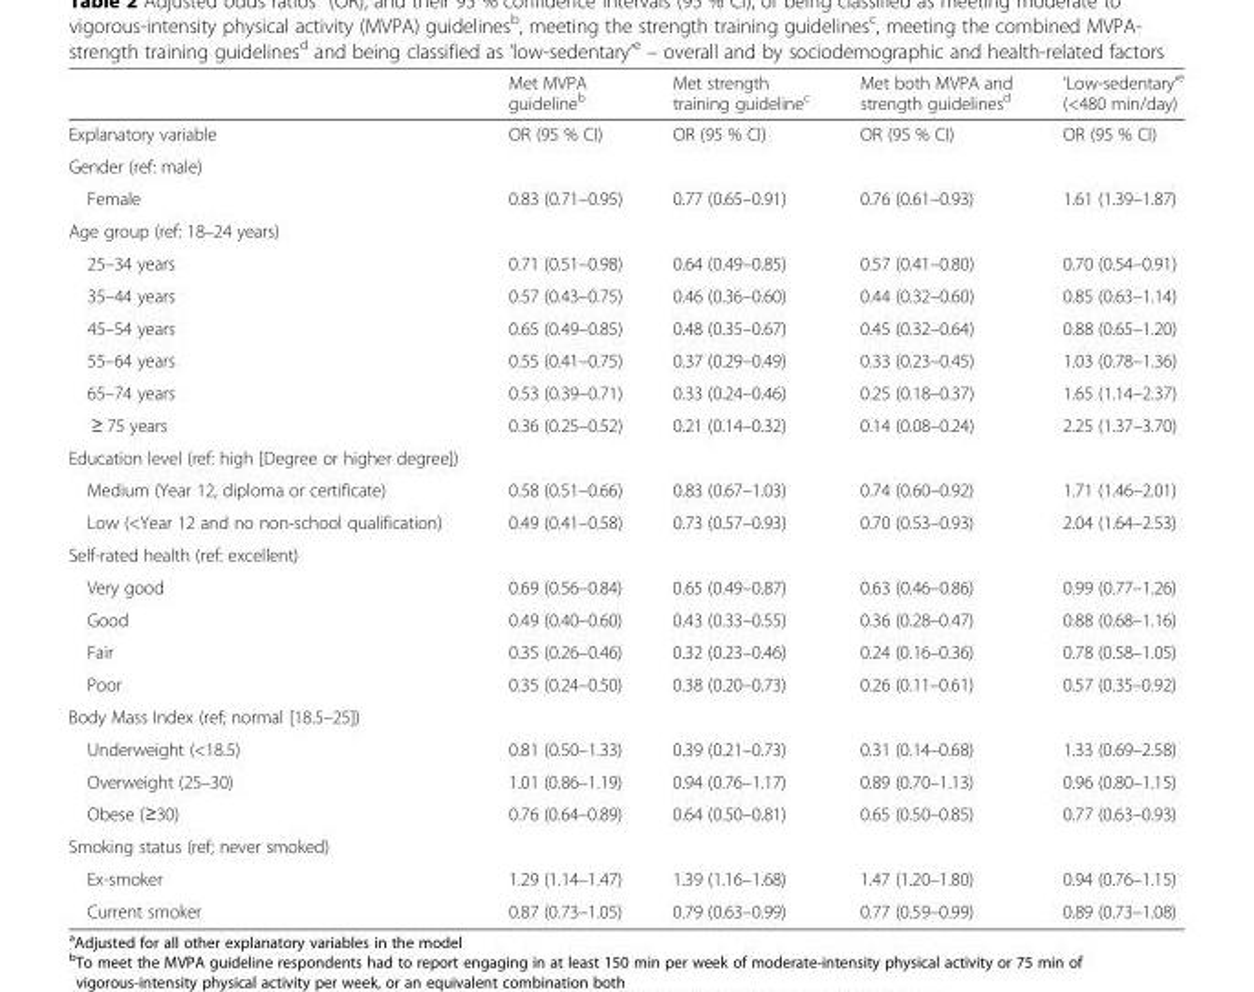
<table><thead><tr><td></td><td>Met MVPA guideline<sup>b</sup></td><td>Met strength training guideline<sup>c</sup></td><td>Met both MVPA and strength guidelines<sup>d</sup></td><td>‘Low-sedentary’<sup>e</sup> (&lt;480 min/day)</td></tr></thead><tbody><tr><td>Explanatory variable</td><td>OR (95 % CI)</td><td>OR (95 % CI)</td><td>OR (95 % CI)</td><td>OR (95 % CI)</td></tr><tr><td colspan="5">Gender (ref: male)</td></tr><tr><td>Female</td><td>0.83 (0.71–0.95)</td><td>0.77 (0.65–0.91)</td><td>0.76 (0.61–0.93)</td><td>1.61 (1.39–1.87)</td></tr><tr><td colspan="5">Age group (ref: 18–24 years)</td></tr><tr><td>25–34 years</td><td>0.71 (0.51–0.98)</td><td>0.64 (0.49–0.85)</td><td>0.57 (0.41–0.80)</td><td>0.70 (0.54–0.91)</td></tr><tr><td>35–44 years</td><td>0.57 (0.43–0.75)</td><td>0.46 (0.36–0.60)</td><td>0.44 (0.32–0.60)</td><td>0.85 (0.63–1.14)</td></tr><tr><td>45–54 years</td><td>0.65 (0.49–0.85)</td><td>0.48 (0.35–0.67)</td><td>0.45 (0.32–0.64)</td><td>0.88 (0.65–1.20)</td></tr><tr><td>55–64 years</td><td>0.55 (0.41–0.75)</td><td>0.37 (0.29–0.49)</td><td>0.33 (0.23–0.45)</td><td>1.03 (0.78–1.36)</td></tr><tr><td>65–74 years</td><td>0.53 (0.39–0.71)</td><td>0.33 (0.24–0.46)</td><td>0.25 (0.18–0.37)</td><td>1.65 (1.14–2.37)</td></tr><tr><td>≥ 75 years</td><td>0.36 (0.25–0.52)</td><td>0.21 (0.14–0.32)</td><td>0.14 (0.08–0.24)</td><td>2.25 (1.37–3.70)</td></tr><tr><td colspan="5">Education level (ref: high [Degree or higher degree])</td></tr><tr><td>Medium (Year 12, diploma or certificate)</td><td>0.58 (0.51–0.66)</td><td>0.83 (0.67–1.03)</td><td>0.74 (0.60–0.92)</td><td>1.71 (1.46–2.01)</td></tr><tr><td>Low (&lt;Year 12 and no non-school qualification)</td><td>0.49 (0.41–0.58)</td><td>0.73 (0.57–0.93)</td><td>0.70 (0.53–0.93)</td><td>2.04 (1.64–2.53)</td></tr><tr><td colspan="5">Self-rated health (ref: excellent)</td></tr><tr><td>Very good</td><td>0.69 (0.56–0.84)</td><td>0.65 (0.49–0.87)</td><td>0.63 (0.46–0.86)</td><td>0.99 (0.77–1.26)</td></tr><tr><td>Good</td><td>0.49 (0.40–0.60)</td><td>0.43 (0.33–0.55)</td><td>0.36 (0.28–0.47)</td><td>0.88 (0.68–1.16)</td></tr><tr><td>Fair</td><td>0.35 (0.26–0.46)</td><td>0.32 (0.23–0.46)</td><td>0.24 (0.16–0.36)</td><td>0.78 (0.58–1.05)</td></tr><tr><td>Poor</td><td>0.35 (0.24–0.50)</td><td>0.38 (0.20–0.73)</td><td>0.26 (0.11–0.61)</td><td>0.57 (0.35–0.92)</td></tr><tr><td colspan="5">Body Mass Index (ref; normal [18.5–25])</td></tr><tr><td>Underweight (&lt;18.5)</td><td>0.81 (0.50–1.33)</td><td>0.39 (0.21–0.73)</td><td>0.31 (0.14–0.68)</td><td>1.33 (0.69–2.58)</td></tr><tr><td>Overweight (25–30)</td><td>1.01 (0.86–1.19)</td><td>0.94 (0.76–1.17)</td><td>0.89 (0.70–1.13)</td><td>0.96 (0.80–1.15)</td></tr><tr><td>Obese (≥30)</td><td>0.76 (0.64–0.89)</td><td>0.64 (0.50–0.81)</td><td>0.65 (0.50–0.85)</td><td>0.77 (0.63–0.93)</td></tr><tr><td colspan="5">Smoking status (ref; never smoked)</td></tr><tr><td>Ex-smoker</td><td>1.29 (1.14–1.47)</td><td>1.39 (1.16–1.68)</td><td>1.47 (1.20–1.80)</td><td>0.94 (0.76–1.15)</td></tr><tr><td>Current smoker</td><td>0.87 (0.73–1.05)</td><td>0.79 (0.63–0.99)</td><td>0.77 (0.59–0.99)</td><td>0.89 (0.73–1.08)</td></tr></tbody></table>